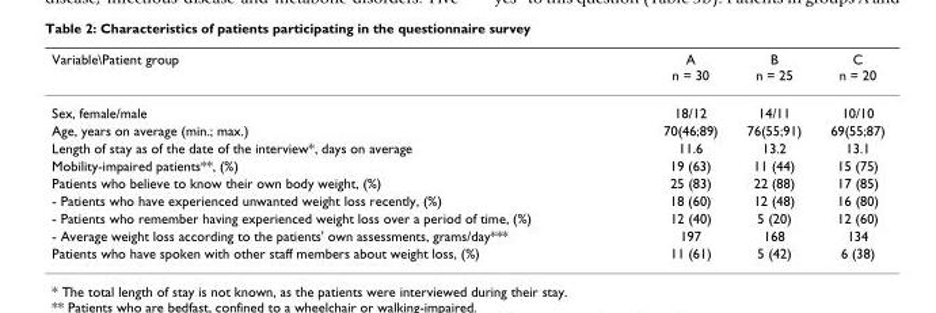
<table><thead><tr><td>Variable\Patient group</td><td>A n = 30</td><td>B n = 25</td><td>C n = 20</td></tr></thead><tbody><tr><td>Sex, female/male</td><td>18/12</td><td>14/11</td><td>10/10</td></tr><tr><td>Age, years on average (min.; max.)</td><td>70(46;89)</td><td>76(55;91)</td><td>69(55;87)</td></tr><tr><td>Length of stay as of the date of the interview*, days on average</td><td>11.6</td><td>13.2</td><td>13.1</td></tr><tr><td>Mobility-impaired patients**, (%)</td><td>19 (63)</td><td>11 (44)</td><td>15 (75)</td></tr><tr><td>Patients who believe to know their own body weight, (%)</td><td>25 (83)</td><td>22 (88)</td><td>17 (85)</td></tr><tr><td>- Patients who have experienced unwanted weight loss recently, (%)</td><td>18 (60)</td><td>12 (48)</td><td>16 (80)</td></tr><tr><td>- Patients who remember having experienced weight loss over a period of time, (%)</td><td>12 (40)</td><td>5 (20)</td><td>12 (60)</td></tr><tr><td>- Average weight loss according to the patients&#x27; own assessments, grams/day***</td><td>197</td><td>168</td><td>134</td></tr><tr><td>Patients who have spoken with other staff members about weight loss, (%)</td><td>11 (61)</td><td>5 (42)</td><td>6 (38)</td></tr></tbody></table>